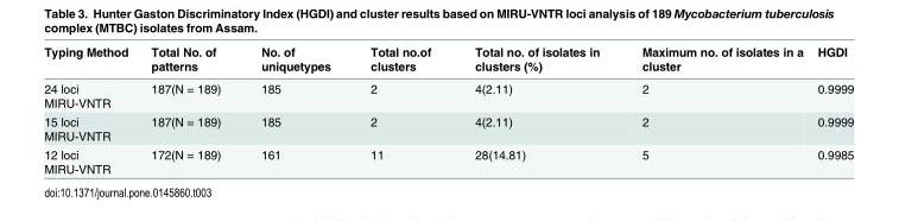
<table><thead><tr><td>Typing Method</td><td>Total No. of patterns</td><td>No. of uniquetypes</td><td>Total no.of clusters</td><td>Total no. of isolates in clusters (%)</td><td>Maximum no. of isolates in a cluster</td><td>HGDI</td></tr></thead><tbody><tr><td>24 loci MIRU-VNTR</td><td>187(N = 189)</td><td>185</td><td>2</td><td>4(2.11)</td><td>2</td><td>0.9999</td></tr><tr><td>15 loci MIRU-VNTR</td><td>187(N = 189)</td><td>185</td><td>2</td><td>4(2.11)</td><td>2</td><td>0.9999</td></tr><tr><td>12 loci MIRU-VNTR</td><td>172(N = 189)</td><td>161</td><td>11</td><td>28(14.81)</td><td>5</td><td>0.9985</td></tr></tbody></table>